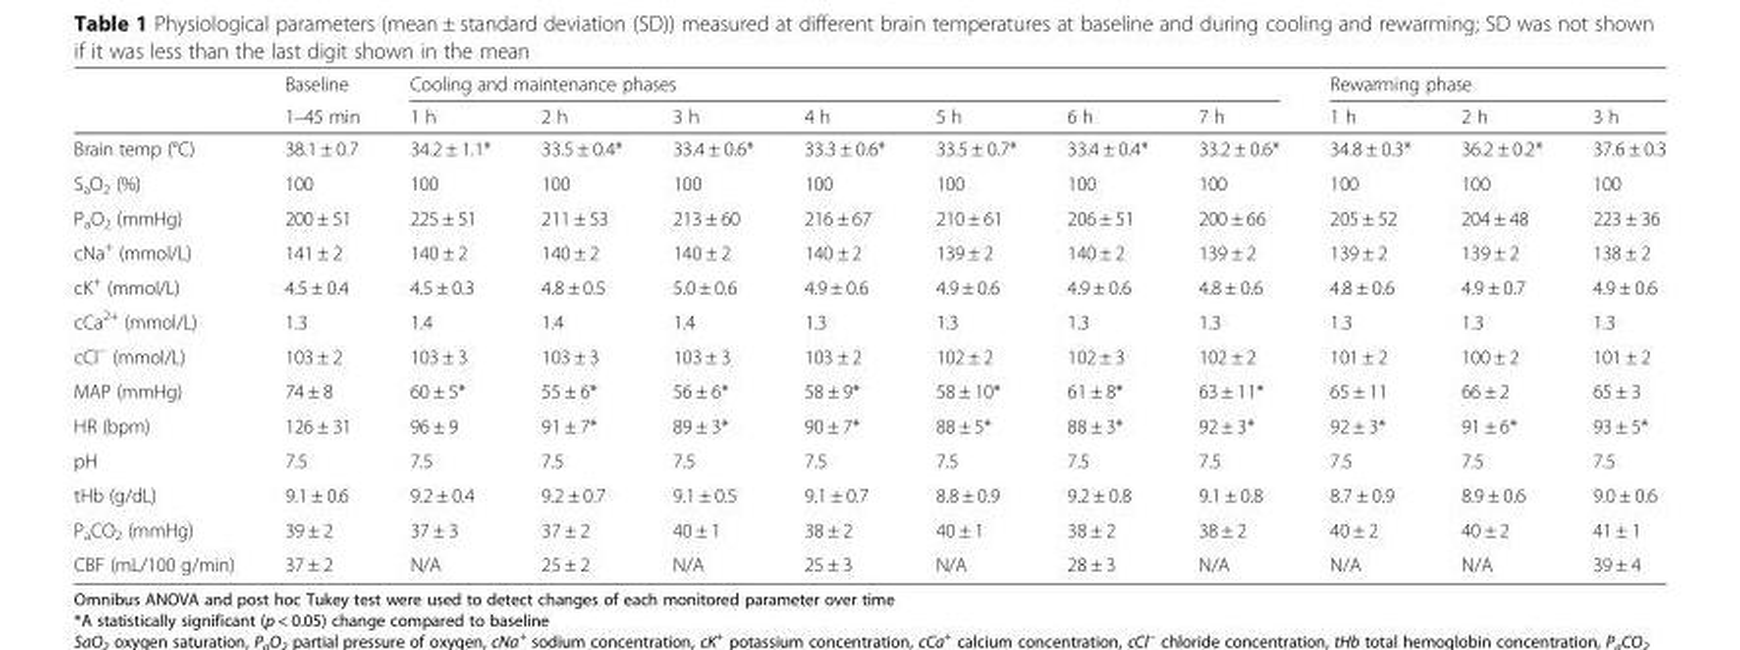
<table><thead><tr><td rowspan="2"></td><td rowspan="2">Baseline 1–45 min</td><td colspan="7">Cooling and maintenance phases</td><td colspan="3">Rewarming phase</td></tr><tr><td>1 h</td><td>2 h</td><td>3 h</td><td>4 h</td><td>5 h</td><td>6 h</td><td>7 h</td><td>1 h</td><td>2 h</td><td>3 h</td></tr></thead><tbody><tr><td>Brain temp (°C)</td><td>38.1 ± 0.7</td><td>34.2 ± 1.1*</td><td>33.5 ± 0.4*</td><td>33.4 ± 0.6*</td><td>33.3 ± 0.6*</td><td>33.5 ± 0.7*</td><td>33.4 ± 0.4*</td><td>33.2 ± 0.6*</td><td>34.8 ± 0.3*</td><td>36.2 ± 0.2*</td><td>37.6 ± 0.3</td></tr><tr><td>S<sub>a</sub>O<sub>2</sub> (%)</td><td>100</td><td>100</td><td>100</td><td>100</td><td>100</td><td>100</td><td>100</td><td>100</td><td>100</td><td>100</td><td>100</td></tr><tr><td>P<sub>a</sub>O<sub>2</sub> (mmHg)</td><td>200 ± 51</td><td>225 ± 51</td><td>211 ± 53</td><td>213 ± 60</td><td>216 ± 67</td><td>210 ± 61</td><td>206 ± 51</td><td>200 ± 66</td><td>205 ± 52</td><td>204 ± 48</td><td>223 ± 36</td></tr><tr><td>cNa<sup>+</sup> (mmol/L)</td><td>141 ± 2</td><td>140 ± 2</td><td>140 ± 2</td><td>140 ± 2</td><td>140 ± 2</td><td>139 ± 2</td><td>140 ± 2</td><td>139 ± 2</td><td>139 ± 2</td><td>139 ± 2</td><td>138 ± 2</td></tr><tr><td>cK<sup>+</sup> (mmol/L)</td><td>4.5 ± 0.4</td><td>4.5 ± 0.3</td><td>4.8 ± 0.5</td><td>5.0 ± 0.6</td><td>4.9 ± 0.6</td><td>4.9 ± 0.6</td><td>4.9 ± 0.6</td><td>4.8 ± 0.6</td><td>4.8 ± 0.6</td><td>4.9 ± 0.7</td><td>4.9 ± 0.6</td></tr><tr><td>cCa<sup>2+</sup> (mmol/L)</td><td>1.3</td><td>1.4</td><td>1.4</td><td>1.4</td><td>1.3</td><td>1.3</td><td>1.3</td><td>1.3</td><td>1.3</td><td>1.3</td><td>1.3</td></tr><tr><td>cCl<sup>−</sup> (mmol/L)</td><td>103 ± 2</td><td>103 ± 3</td><td>103 ± 3</td><td>103 ± 3</td><td>103 ± 2</td><td>102 ± 2</td><td>102 ± 3</td><td>102 ± 2</td><td>101 ± 2</td><td>100 ± 2</td><td>101 ± 2</td></tr><tr><td>MAP (mmHg)</td><td>74 ± 8</td><td>60 ± 5*</td><td>55 ± 6*</td><td>56 ± 6*</td><td>58 ± 9*</td><td>58 ± 10*</td><td>61 ± 8*</td><td>63 ± 11*</td><td>65 ± 11</td><td>66 ± 2</td><td>65 ± 3</td></tr><tr><td>HR (bpm)</td><td>126 ± 31</td><td>96 ± 9</td><td>91 ± 7*</td><td>89 ± 3*</td><td>90 ± 7*</td><td>88 ± 5*</td><td>88 ± 3*</td><td>92 ± 3*</td><td>92 ± 3*</td><td>91 ± 6*</td><td>93 ± 5*</td></tr><tr><td>pH</td><td>7.5</td><td>7.5</td><td>7.5</td><td>7.5</td><td>7.5</td><td>7.5</td><td>7.5</td><td>7.5</td><td>7.5</td><td>7.5</td><td>7.5</td></tr><tr><td>tHb (g/dL)</td><td>9.1 ± 0.6</td><td>9.2 ± 0.4</td><td>9.2 ± 0.7</td><td>9.1 ± 0.5</td><td>9.1 ± 0.7</td><td>8.8 ± 0.9</td><td>9.2 ± 0.8</td><td>9.1 ± 0.8</td><td>8.7 ± 0.9</td><td>8.9 ± 0.6</td><td>9.0 ± 0.6</td></tr><tr><td>P<sub>a</sub>CO<sub>2</sub> (mmHg)</td><td>39 ± 2</td><td>37 ± 3</td><td>37 ± 2</td><td>40 ± 1</td><td>38 ± 2</td><td>40 ± 1</td><td>38 ± 2</td><td>38 ± 2</td><td>40 ± 2</td><td>40 ± 2</td><td>41 ± 1</td></tr><tr><td>CBF (mL/100 g/min)</td><td>37 ± 2</td><td>N/A</td><td>25 ± 2</td><td>N/A</td><td>25 ± 3</td><td>N/A</td><td>28 ± 3</td><td>N/A</td><td>N/A</td><td>N/A</td><td>39 ± 4</td></tr></tbody></table>